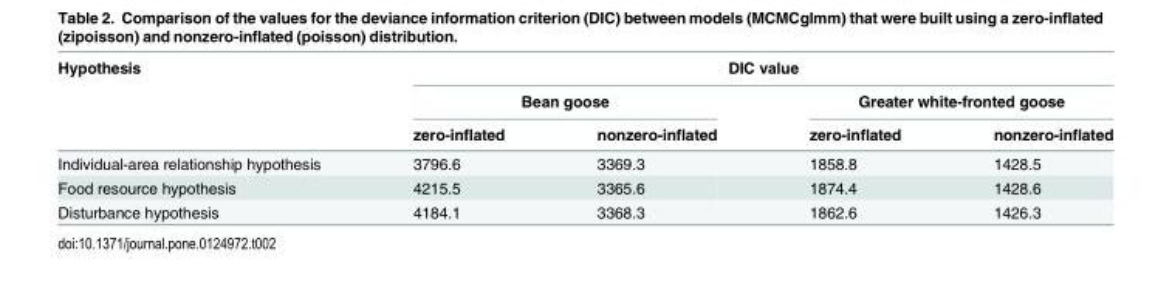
<table><thead><tr><td rowspan="3">Hypothesis</td><td colspan="4">DIC value</td></tr><tr><td colspan="2">Bean goose</td><td colspan="2">Greater white-fronted goose</td></tr><tr><td>zero-inflated</td><td>nonzero-inflated</td><td>zero-inflated</td><td>nonzero-inflated</td></tr></thead><tbody><tr><td>Individual-area relationship hypothesis</td><td>3796.6</td><td>3369.3</td><td>1858.8</td><td>1428.5</td></tr><tr><td>Food resource hypothesis</td><td>4215.5</td><td>3365.6</td><td>1874.4</td><td>1428.6</td></tr><tr><td>Disturbance hypothesis</td><td>4184.1</td><td>3368.3</td><td>1862.6</td><td>1426.3</td></tr></tbody></table>